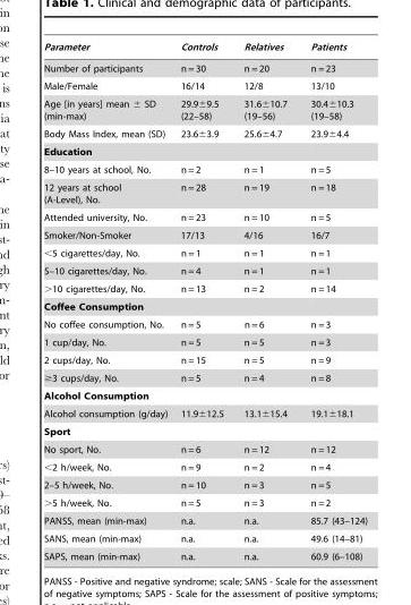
<table><thead><tr><td>Parameter</td><td>Controls</td><td>Relatives</td><td>Patients</td></tr></thead><tbody><tr><td>Number of participants</td><td>n = 30</td><td>n = 20</td><td>n = 23</td></tr><tr><td>Male/Female</td><td>16/14</td><td>12/8</td><td>13/10</td></tr><tr><td>Age [in years] mean ± SD (min-max)</td><td>29.9±9.5 (22–58)</td><td>31.6±10.7 (19–56)</td><td>30.4±10.3 (19–58)</td></tr><tr><td>Body Mass Index, mean (SD)</td><td>23.6±3.9</td><td>25.6±4.7</td><td>23.9±4.4</td></tr><tr><td colspan="4">Education</td></tr><tr><td>8–10 years at school, No.</td><td>n = 2</td><td>n = 1</td><td>n = 5</td></tr><tr><td>12 years at school (A-Level), No.</td><td>n = 28</td><td>n = 19</td><td>n = 18</td></tr><tr><td>Attended university, No.</td><td>n = 23</td><td>n = 10</td><td>n = 5</td></tr><tr><td>Smoker/Non-Smoker</td><td>17/13</td><td>4/16</td><td>16/7</td></tr><tr><td>&lt;5 cigarettes/day, No.</td><td>n = 1</td><td>n = 1</td><td>n = 1</td></tr><tr><td>5–10 cigarettes/day, No.</td><td>n = 4</td><td>n = 1</td><td>n = 1</td></tr><tr><td>&gt;10 cigarettes/day, No.</td><td>n = 13</td><td>n = 2</td><td>n = 14</td></tr><tr><td colspan="4">Coffee Consumption</td></tr><tr><td>No coffee consumption, No.</td><td>n = 5</td><td>n = 6</td><td>n = 3</td></tr><tr><td>1 cup/day, No.</td><td>n = 5</td><td>n = 5</td><td>n = 3</td></tr><tr><td>2 cups/day, No.</td><td>n = 15</td><td>n = 5</td><td>n = 9</td></tr><tr><td>≥3 cups/day, No.</td><td>n = 5</td><td>n = 4</td><td>n = 8</td></tr><tr><td colspan="4">Alcohol Consumption</td></tr><tr><td>Alcohol consumption (g/day)</td><td>11.9±12.5</td><td>13.1±15.4</td><td>19.1±18.1</td></tr><tr><td colspan="4">Sport</td></tr><tr><td>No sport, No.</td><td>n = 6</td><td>n = 12</td><td>n = 12</td></tr><tr><td>&lt;2 h/week, No.</td><td>n = 9</td><td>n = 2</td><td>n = 4</td></tr><tr><td>2–5 h/week, No.</td><td>n = 10</td><td>n = 3</td><td>n = 5</td></tr><tr><td>&gt;5 h/week, No.</td><td>n = 5</td><td>n = 3</td><td>n = 2</td></tr><tr><td>PANSS, mean (min-max)</td><td>n.a.</td><td>n.a.</td><td>85.7 (43–124)</td></tr><tr><td>SANS, mean (min-max)</td><td>n.a.</td><td>n.a.</td><td>49.6 (14–81)</td></tr><tr><td>SAPS, mean (min-max)</td><td>n.a.</td><td>n.a.</td><td>60.9 (6–108)</td></tr></tbody></table>